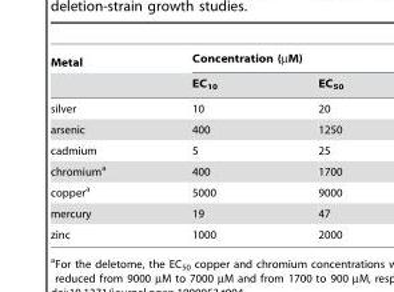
<table><thead><tr><td rowspan="2">Metal</td><td colspan="2">Concentration (µM)</td></tr><tr><td>EC<sub>10</sub></td><td>EC<sub>50</sub></td></tr></thead><tbody><tr><td>silver</td><td>10</td><td>20</td></tr><tr><td>arsenic</td><td>400</td><td>1250</td></tr><tr><td>cadmium</td><td>5</td><td>25</td></tr><tr><td>chromium<sup>a</sup></td><td>400</td><td>1700</td></tr><tr><td>copper<sup>a</sup></td><td>5000</td><td>9000</td></tr><tr><td>mercury</td><td>19</td><td>47</td></tr><tr><td>zinc</td><td>1000</td><td>2000</td></tr></tbody></table>